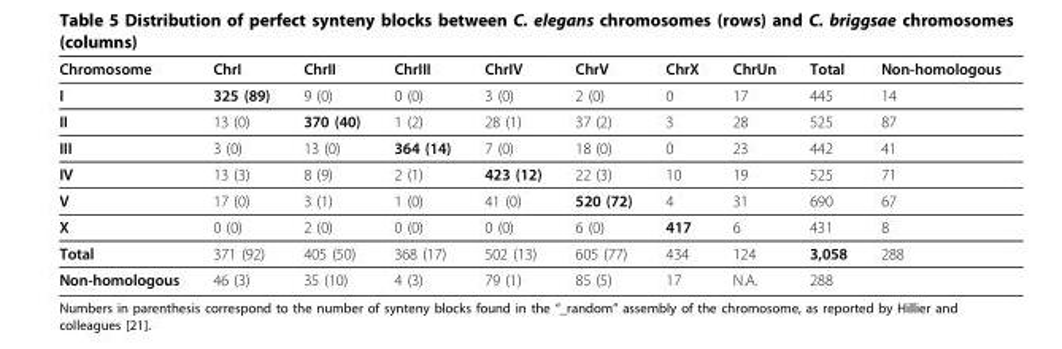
<table><thead><tr><td>Chromosome</td><td>ChrI</td><td>ChrII</td><td>ChrIII</td><td>ChrIV</td><td>ChrV</td><td>ChrX</td><td>ChrUn</td><td>Total</td><td>Non-homologous</td></tr></thead><tbody><tr><td>I</td><td>325 (89)</td><td>9 (0)</td><td>0 (0)</td><td>3 (0)</td><td>2 (0)</td><td>0</td><td>17</td><td>445</td><td>14</td></tr><tr><td>II</td><td>13 (0)</td><td>370 (40)</td><td>1 (2)</td><td>28 (1)</td><td>37 (2)</td><td>3</td><td>28</td><td>525</td><td>87</td></tr><tr><td>III</td><td>3 (0)</td><td>13 (0)</td><td>364 (14)</td><td>7 (0)</td><td>18 (0)</td><td>0</td><td>23</td><td>442</td><td>41</td></tr><tr><td>IV</td><td>13 (3)</td><td>8 (9)</td><td>2 (1)</td><td>423 (12)</td><td>22 (3)</td><td>10</td><td>19</td><td>525</td><td>71</td></tr><tr><td>V</td><td>17 (0)</td><td>3 (1)</td><td>1 (0)</td><td>41 (0)</td><td>520 (72)</td><td>4</td><td>31</td><td>690</td><td>67</td></tr><tr><td>X</td><td>0 (0)</td><td>2 (0)</td><td>0 (0)</td><td>0 (0)</td><td>6 (0)</td><td>417</td><td>6</td><td>431</td><td>8</td></tr><tr><td>Total</td><td>371 (92)</td><td>405 (50)</td><td>368 (17)</td><td>502 (13)</td><td>605 (77)</td><td>434</td><td>124</td><td>3,058</td><td>288</td></tr><tr><td>Non-homologous</td><td>46 (3)</td><td>35 (10)</td><td>4 (3)</td><td>79 (1)</td><td>85 (5)</td><td>17</td><td>N.A.</td><td>288</td><td></td></tr></tbody></table>